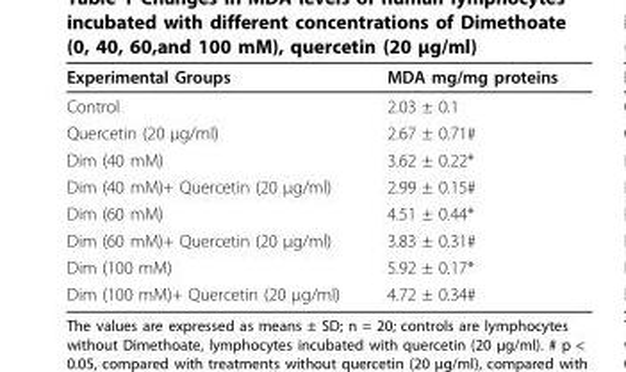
<table><thead><tr><td>Experimental Groups</td><td>MDA mg/mg proteins</td></tr></thead><tbody><tr><td>Control</td><td>2.03 ± 0.1</td></tr><tr><td>Quercetin (20 μg/ml)</td><td>2.67 ± 0.71#</td></tr><tr><td>Dim (40 mM)</td><td>3.62 ± 0.22*</td></tr><tr><td>Dim (40 mM)+ Quercetin (20 μg/ml)</td><td>2.99 ± 0.15#</td></tr><tr><td>Dim (60 mM)</td><td>4.51 ± 0.44*</td></tr><tr><td>Dim (60 mM)+ Quercetin (20 μg/ml)</td><td>3.83 ± 0.31#</td></tr><tr><td>Dim (100 mM)</td><td>5.92 ± 0.17*</td></tr><tr><td>Dim (100 mM)+ Quercetin (20 μg/ml)</td><td>4.72 ± 0.34#</td></tr></tbody></table>